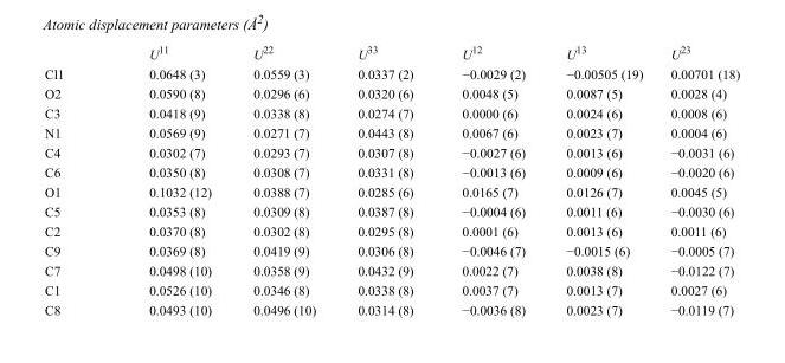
<table><thead><tr><td></td><td>U<sup>11</sup></td><td>U<sup>22</sup></td><td>U<sup>33</sup></td><td>U<sup>12</sup></td><td>U<sup>13</sup></td><td>U<sup>23</sup></td></tr></thead><tbody><tr><td>Cl1</td><td>0.0648 (3)</td><td>0.0559 (3)</td><td>0.0337 (2)</td><td>−0.0029 (2)</td><td>−0.00505 (19)</td><td>0.00701 (18)</td></tr><tr><td>O2</td><td>0.0590 (8)</td><td>0.0296 (6)</td><td>0.0320 (6)</td><td>0.0048 (5)</td><td>0.0087 (5)</td><td>0.0028 (4)</td></tr><tr><td>C3</td><td>0.0418 (9)</td><td>0.0338 (8)</td><td>0.0274 (7)</td><td>0.0000 (6)</td><td>0.0024 (6)</td><td>0.0008 (6)</td></tr><tr><td>N1</td><td>0.0569 (9)</td><td>0.0271 (7)</td><td>0.0443 (8)</td><td>0.0067 (6)</td><td>0.0023 (7)</td><td>0.0004 (6)</td></tr><tr><td>C4</td><td>0.0302 (7)</td><td>0.0293 (7)</td><td>0.0307 (8)</td><td>−0.0027 (6)</td><td>0.0013 (6)</td><td>−0.0031 (6)</td></tr><tr><td>C6</td><td>0.0350 (8)</td><td>0.0308 (7)</td><td>0.0331 (8)</td><td>−0.0013 (6)</td><td>0.0009 (6)</td><td>−0.0020 (6)</td></tr><tr><td>O1</td><td>0.1032 (12)</td><td>0.0388 (7)</td><td>0.0285 (6)</td><td>0.0165 (7)</td><td>0.0126 (7)</td><td>0.0045 (5)</td></tr><tr><td>C5</td><td>0.0353 (8)</td><td>0.0309 (8)</td><td>0.0387 (8)</td><td>−0.0004 (6)</td><td>0.0011 (6)</td><td>−0.0030 (6)</td></tr><tr><td>C2</td><td>0.0370 (8)</td><td>0.0302 (8)</td><td>0.0295 (8)</td><td>0.0001 (6)</td><td>0.0013 (6)</td><td>0.0011 (6)</td></tr><tr><td>C9</td><td>0.0369 (8)</td><td>0.0419 (9)</td><td>0.0306 (8)</td><td>−0.0046 (7)</td><td>−0.0015 (6)</td><td>−0.0005 (7)</td></tr><tr><td>C7</td><td>0.0498 (10)</td><td>0.0358 (9)</td><td>0.0432 (9)</td><td>0.0022 (7)</td><td>0.0038 (8)</td><td>−0.0122 (7)</td></tr><tr><td>C1</td><td>0.0526 (10)</td><td>0.0346 (8)</td><td>0.0338 (8)</td><td>0.0037 (7)</td><td>0.0013 (7)</td><td>0.0027 (6)</td></tr><tr><td>C8</td><td>0.0493 (10)</td><td>0.0496 (10)</td><td>0.0314 (8)</td><td>−0.0036 (8)</td><td>0.0023 (7)</td><td>−0.0119 (7)</td></tr></tbody></table>